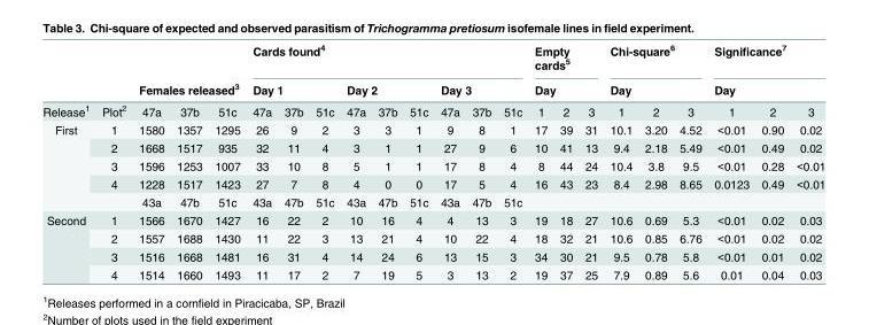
<table><thead><tr><td rowspan="3">Release<sup>1</sup></td><td rowspan="3">Plot<sup>2</sup></td><td></td><td></td><td></td><td colspan="9">Cards found<sup>4</sup></td><td rowspan="2" colspan="3">Empty cards<sup>5</sup> Day</td><td rowspan="2" colspan="3">Chi-square<sup>6</sup> Day</td><td rowspan="2" colspan="3">Significance<sup>7</sup> Day</td></tr><tr><td colspan="3">Females released<sup>3</sup></td><td colspan="3">Day 1</td><td colspan="3">Day 2</td><td colspan="3">Day 3</td></tr><tr><td>47a</td><td>37b</td><td>51c</td><td>47a</td><td>37b</td><td>51c</td><td>47a</td><td>37b</td><td>51c</td><td>47a</td><td>37b</td><td>51c</td><td>1</td><td>2</td><td>3</td><td>1</td><td>2</td><td>3</td><td>1</td><td>2</td><td>3</td></tr></thead><tbody><tr><td rowspan="4">First</td><td>1</td><td>1580</td><td>1357</td><td>1295</td><td>26</td><td>9</td><td>2</td><td>3</td><td>3</td><td>1</td><td>9</td><td>8</td><td>1</td><td>17</td><td>39</td><td>31</td><td>10.1</td><td>3.20</td><td>4.52</td><td>&lt;0.01</td><td>0.90</td><td>0.02</td></tr><tr><td>2</td><td>1668</td><td>1517</td><td>935</td><td>32</td><td>11</td><td>4</td><td>3</td><td>1</td><td>1</td><td>27</td><td>9</td><td>6</td><td>10</td><td>41</td><td>13</td><td>9.4</td><td>2.18</td><td>5.49</td><td>&lt;0.01</td><td>0.49</td><td>0.02</td></tr><tr><td>3</td><td>1596</td><td>1253</td><td>1007</td><td>33</td><td>10</td><td>8</td><td>5</td><td>1</td><td>1</td><td>17</td><td>8</td><td>4</td><td>8</td><td>44</td><td>24</td><td>10.4</td><td>3.8</td><td>9.5</td><td>&lt;0.01</td><td>0.28</td><td>&lt;0.01</td></tr><tr><td>4</td><td>1228</td><td>1517</td><td>1423</td><td>27</td><td>7</td><td>8</td><td>4</td><td>0</td><td>0</td><td>17</td><td>5</td><td>4</td><td>16</td><td>43</td><td>23</td><td>8.4</td><td>2.98</td><td>8.65</td><td>0.0123</td><td>0.49</td><td>&lt;0.01</td></tr><tr><td colspan="2"></td><td>43a</td><td>47b</td><td>51c</td><td>43a</td><td>47b</td><td>51c</td><td>43a</td><td>47b</td><td>51c</td><td>43a</td><td>47b</td><td>51c</td><td colspan="9"></td></tr><tr><td rowspan="4">Second</td><td>1</td><td>1566</td><td>1670</td><td>1427</td><td>16</td><td>22</td><td>2</td><td>10</td><td>16</td><td>4</td><td>4</td><td>13</td><td>3</td><td>19</td><td>18</td><td>27</td><td>10.6</td><td>0.69</td><td>5.3</td><td>&lt;0.01</td><td>0.02</td><td>0.03</td></tr><tr><td>2</td><td>1557</td><td>1688</td><td>1430</td><td>11</td><td>22</td><td>3</td><td>13</td><td>21</td><td>4</td><td>10</td><td>22</td><td>4</td><td>18</td><td>32</td><td>21</td><td>10.6</td><td>0.85</td><td>6.76</td><td>&lt;0.01</td><td>0.02</td><td>0.02</td></tr><tr><td>3</td><td>1516</td><td>1668</td><td>1481</td><td>16</td><td>31</td><td>4</td><td>14</td><td>24</td><td>6</td><td>13</td><td>15</td><td>3</td><td>34</td><td>30</td><td>21</td><td>9.5</td><td>0.78</td><td>5.8</td><td>&lt;0.01</td><td>0.01</td><td>0.02</td></tr><tr><td>4</td><td>1514</td><td>1660</td><td>1493</td><td>11</td><td>17</td><td>2</td><td>7</td><td>19</td><td>5</td><td>3</td><td>13</td><td>2</td><td>19</td><td>37</td><td>25</td><td>7.9</td><td>0.89</td><td>5.6</td><td>0.01</td><td>0.04</td><td>0.03</td></tr></tbody></table>